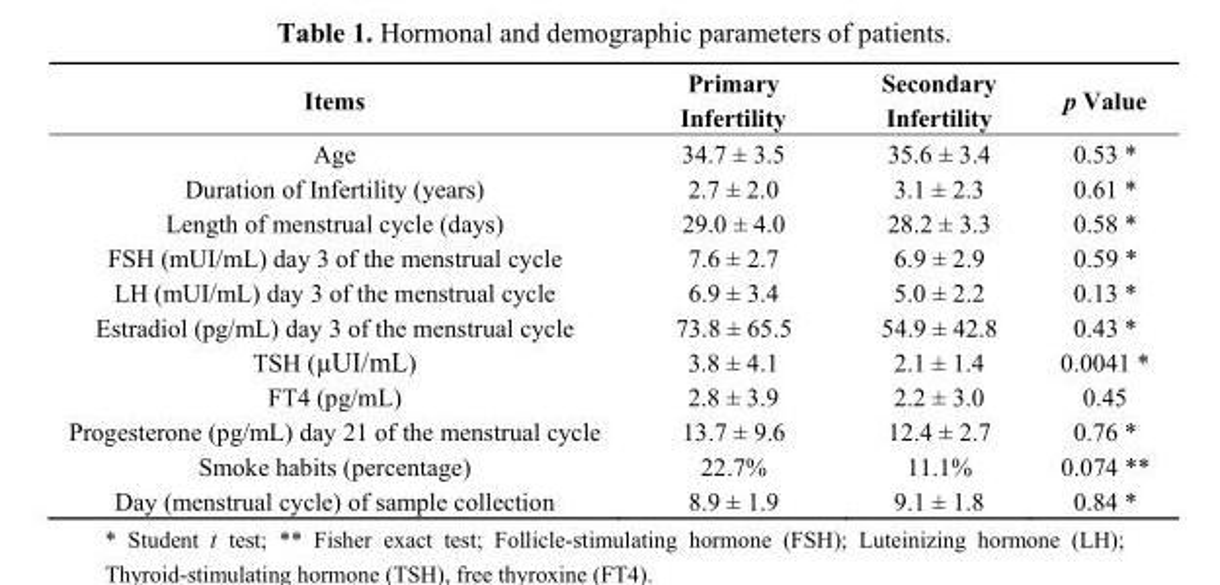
<table><thead><tr><td>Items</td><td>Primary Infertility</td><td>Secondary Infertility</td><td>p Value</td></tr></thead><tbody><tr><td>Age</td><td>34.7 ± 3.5</td><td>35.6 ± 3.4</td><td>0.53 *</td></tr><tr><td>Duration of Infertility (years)</td><td>2.7 ± 2.0</td><td>3.1 ± 2.3</td><td>0.61 *</td></tr><tr><td>Length of menstrual cycle (days)</td><td>29.0 ± 4.0</td><td>28.2 ± 3.3</td><td>0.58 *</td></tr><tr><td>FSH (mUI/mL) day 3 of the menstrual cycle</td><td>7.6 ± 2.7</td><td>6.9 ± 2.9</td><td>0.59 *</td></tr><tr><td>LH (mUI/mL) day 3 of the menstrual cycle</td><td>6.9 ± 3.4</td><td>5.0 ± 2.2</td><td>0.13 *</td></tr><tr><td>Estradiol (pg/mL) day 3 of the menstrual cycle</td><td>73.8 ± 65.5</td><td>54.9 ± 42.8</td><td>0.43 *</td></tr><tr><td>TSH (µUI/mL)</td><td>3.8 ± 4.1</td><td>2.1 ± 1.4</td><td>0.0041 *</td></tr><tr><td>FT4 (pg/mL)</td><td>2.8 ± 3.9</td><td>2.2 ± 3.0</td><td>0.45</td></tr><tr><td>Progesterone (pg/mL) day 21 of the menstrual cycle</td><td>13.7 ± 9.6</td><td>12.4 ± 2.7</td><td>0.76 *</td></tr><tr><td>Smoke habits (percentage)</td><td>22.7%</td><td>11.1%</td><td>0.074 **</td></tr><tr><td>Day (menstrual cycle) of sample collection</td><td>8.9 ± 1.9</td><td>9.1 ± 1.8</td><td>0.84 *</td></tr></tbody></table>